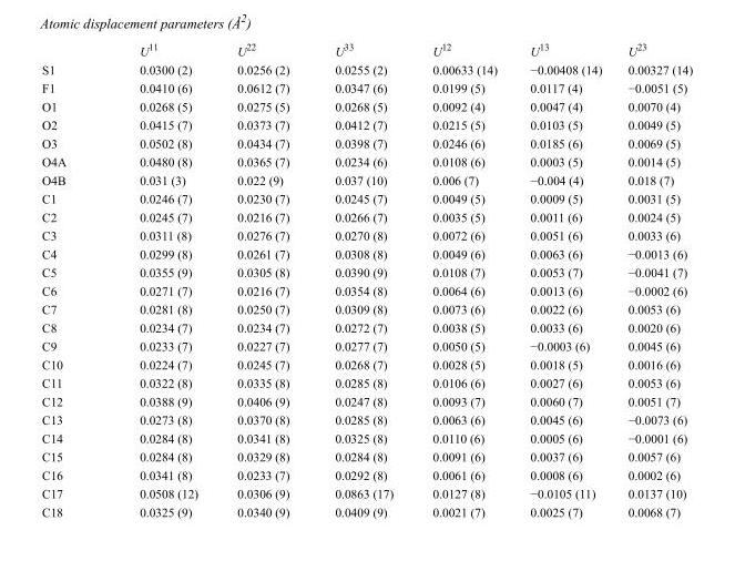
<table><thead><tr><td></td><td>U<sup>11</sup></td><td>U<sup>22</sup></td><td>U<sup>33</sup></td><td>U<sup>12</sup></td><td>U<sup>13</sup></td><td>U<sup>23</sup></td></tr></thead><tbody><tr><td>S1</td><td>0.0300 (2)</td><td>0.0256 (2)</td><td>0.0255 (2)</td><td>0.00633 (14)</td><td>−0.00408 (14)</td><td>0.00327 (14)</td></tr><tr><td>F1</td><td>0.0410 (6)</td><td>0.0612 (7)</td><td>0.0347 (6)</td><td>0.0199 (5)</td><td>0.0117 (4)</td><td>−0.0051 (5)</td></tr><tr><td>O1</td><td>0.0268 (5)</td><td>0.0275 (5)</td><td>0.0268 (5)</td><td>0.0092 (4)</td><td>0.0047 (4)</td><td>0.0070 (4)</td></tr><tr><td>O2</td><td>0.0415 (7)</td><td>0.0373 (7)</td><td>0.0412 (7)</td><td>0.0215 (5)</td><td>0.0103 (5)</td><td>0.0049 (5)</td></tr><tr><td>O3</td><td>0.0502 (8)</td><td>0.0434 (7)</td><td>0.0398 (7)</td><td>0.0246 (6)</td><td>0.0185 (6)</td><td>0.0069 (5)</td></tr><tr><td>O4A</td><td>0.0480 (8)</td><td>0.0365 (7)</td><td>0.0234 (6)</td><td>0.0108 (6)</td><td>0.0003 (5)</td><td>0.0014 (5)</td></tr><tr><td>O4B</td><td>0.031 (3)</td><td>0.022 (9)</td><td>0.037 (10)</td><td>0.006 (7)</td><td>−0.004 (4)</td><td>0.018 (7)</td></tr><tr><td>C1</td><td>0.0246 (7)</td><td>0.0230 (7)</td><td>0.0245 (7)</td><td>0.0049 (5)</td><td>0.0009 (5)</td><td>0.0031 (5)</td></tr><tr><td>C2</td><td>0.0245 (7)</td><td>0.0216 (7)</td><td>0.0266 (7)</td><td>0.0035 (5)</td><td>0.0011 (6)</td><td>0.0024 (5)</td></tr><tr><td>C3</td><td>0.0311 (8)</td><td>0.0276 (7)</td><td>0.0270 (8)</td><td>0.0072 (6)</td><td>0.0051 (6)</td><td>0.0033 (6)</td></tr><tr><td>C4</td><td>0.0299 (8)</td><td>0.0261 (7)</td><td>0.0308 (8)</td><td>0.0049 (6)</td><td>0.0063 (6)</td><td>−0.0013 (6)</td></tr><tr><td>C5</td><td>0.0355 (9)</td><td>0.0305 (8)</td><td>0.0390 (9)</td><td>0.0108 (7)</td><td>0.0053 (7)</td><td>−0.0041 (7)</td></tr><tr><td>C6</td><td>0.0271 (7)</td><td>0.0216 (7)</td><td>0.0354 (8)</td><td>0.0064 (6)</td><td>0.0013 (6)</td><td>−0.0002 (6)</td></tr><tr><td>C7</td><td>0.0281 (8)</td><td>0.0250 (7)</td><td>0.0309 (8)</td><td>0.0073 (6)</td><td>0.0022 (6)</td><td>0.0053 (6)</td></tr><tr><td>C8</td><td>0.0234 (7)</td><td>0.0234 (7)</td><td>0.0272 (7)</td><td>0.0038 (5)</td><td>0.0033 (6)</td><td>0.0020 (6)</td></tr><tr><td>C9</td><td>0.0233 (7)</td><td>0.0227 (7)</td><td>0.0277 (7)</td><td>0.0050 (5)</td><td>−0.0003 (6)</td><td>0.0045 (6)</td></tr><tr><td>C10</td><td>0.0224 (7)</td><td>0.0245 (7)</td><td>0.0268 (7)</td><td>0.0028 (5)</td><td>0.0018 (5)</td><td>0.0016 (6)</td></tr><tr><td>C11</td><td>0.0322 (8)</td><td>0.0335 (8)</td><td>0.0285 (8)</td><td>0.0106 (6)</td><td>0.0027 (6)</td><td>0.0053 (6)</td></tr><tr><td>C12</td><td>0.0388 (9)</td><td>0.0406 (9)</td><td>0.0247 (8)</td><td>0.0093 (7)</td><td>0.0060 (7)</td><td>0.0051 (7)</td></tr><tr><td>C13</td><td>0.0273 (8)</td><td>0.0370 (8)</td><td>0.0285 (8)</td><td>0.0063 (6)</td><td>0.0045 (6)</td><td>−0.0073 (6)</td></tr><tr><td>C14</td><td>0.0284 (8)</td><td>0.0341 (8)</td><td>0.0325 (8)</td><td>0.0110 (6)</td><td>0.0005 (6)</td><td>−0.0001 (6)</td></tr><tr><td>C15</td><td>0.0284 (8)</td><td>0.0329 (8)</td><td>0.0284 (8)</td><td>0.0091 (6)</td><td>0.0037 (6)</td><td>0.0057 (6)</td></tr><tr><td>C16</td><td>0.0341 (8)</td><td>0.0233 (7)</td><td>0.0292 (8)</td><td>0.0061 (6)</td><td>0.0008 (6)</td><td>0.0002 (6)</td></tr><tr><td>C17</td><td>0.0508 (12)</td><td>0.0306 (9)</td><td>0.0863 (17)</td><td>0.0127 (8)</td><td>−0.0105 (11)</td><td>0.0137 (10)</td></tr><tr><td>C18</td><td>0.0325 (9)</td><td>0.0340 (9)</td><td>0.0409 (9)</td><td>0.0021 (7)</td><td>0.0025 (7)</td><td>0.0068 (7)</td></tr></tbody></table>